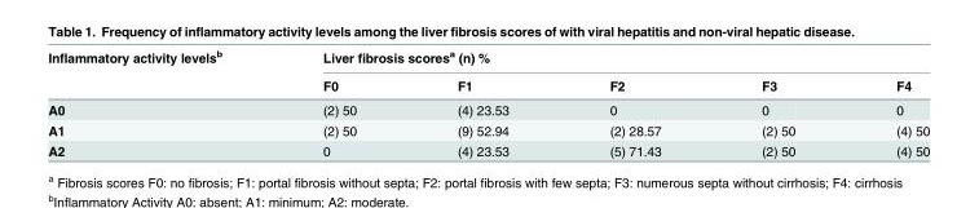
<table><thead><tr><td rowspan="2">Inflammatory activity levels<sup>b</sup></td><td colspan="5">Liver fibrosis scores<sup>a</sup> (n) %</td></tr><tr><td>F0</td><td>F1</td><td>F2</td><td>F3</td><td>F4</td></tr></thead><tbody><tr><td>A0</td><td>(2) 50</td><td>(4) 23.53</td><td>0</td><td>0</td><td>0</td></tr><tr><td>A1</td><td>(2) 50</td><td>(9) 52.94</td><td>(2) 28.57</td><td>(2) 50</td><td>(4) 50</td></tr><tr><td>A2</td><td>0</td><td>(4) 23.53</td><td>(5) 71.43</td><td>(2) 50</td><td>(4) 50</td></tr></tbody></table>